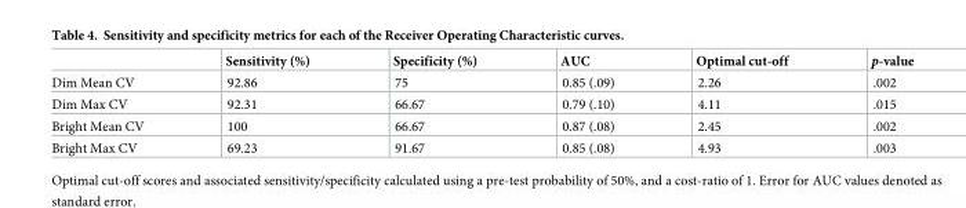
<table><thead><tr><td></td><td>Sensitivity (%)</td><td>Specificity (%)</td><td>AUC</td><td>Optimal cut-off</td><td>p-value</td></tr></thead><tbody><tr><td>Dim Mean CV</td><td>92.86</td><td>75</td><td>0.85 (.09)</td><td>2.26</td><td>.002</td></tr><tr><td>Dim Max CV</td><td>92.31</td><td>66.67</td><td>0.79 (.10)</td><td>4.11</td><td>.015</td></tr><tr><td>Bright Mean CV</td><td>100</td><td>66.67</td><td>0.87 (.08)</td><td>2.45</td><td>.002</td></tr><tr><td>Bright Max CV</td><td>69.23</td><td>91.67</td><td>0.85 (.08)</td><td>4.93</td><td>.003</td></tr></tbody></table>